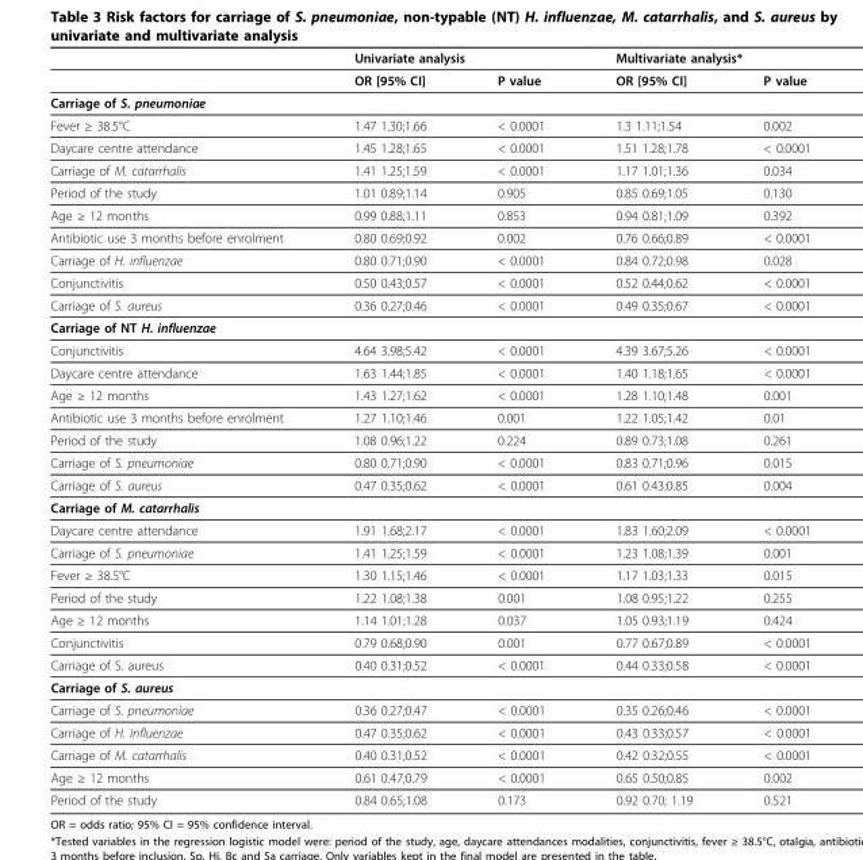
<table><thead><tr><td rowspan="2"></td><td colspan="2">Univariate analysis</td><td colspan="2">Multivariate analysis*</td></tr><tr><td>OR [95% CI]</td><td>P value</td><td>OR [95% CI]</td><td>P value</td></tr></thead><tbody><tr><td colspan="5">Carriage of S. pneumoniae</td></tr><tr><td>Fever ≥ 38.5°C</td><td>1.47 1.30;1.66</td><td>&lt; 0.0001</td><td>1.3 1.11;1.54</td><td>0.002</td></tr><tr><td>Daycare centre attendance</td><td>1.45 1.28;1.65</td><td>&lt; 0.0001</td><td>1.51 1.28;1.78</td><td>&lt; 0.0001</td></tr><tr><td>Carriage of M. catarrhalis</td><td>1.41 1.25;1.59</td><td>&lt; 0.0001</td><td>1.17 1.01;1.36</td><td>0.034</td></tr><tr><td>Period of the study</td><td>1.01 0.89;1.14</td><td>0.905</td><td>0.85 0.69;1.05</td><td>0.130</td></tr><tr><td>Age ≥ 12 months</td><td>0.99 0.88;1.11</td><td>0.853</td><td>0.94 0.81;1.09</td><td>0.392</td></tr><tr><td>Antibiotic use 3 months before enrolment</td><td>0.80 0.69;0.92</td><td>0.002</td><td>0.76 0.66;0.89</td><td>&lt; 0.0001</td></tr><tr><td>Carriage of H. influenzae</td><td>0.80 0.71;0.90</td><td>&lt; 0.0001</td><td>0.84 0.72;0.98</td><td>0.028</td></tr><tr><td>Conjunctivitis</td><td>0.50 0.43;0.57</td><td>&lt; 0.0001</td><td>0.52 0.44;0.62</td><td>&lt; 0.0001</td></tr><tr><td>Carriage of S. aureus</td><td>0.36 0.27;0.46</td><td>&lt; 0.0001</td><td>0.49 0.35;0.67</td><td>&lt; 0.0001</td></tr><tr><td colspan="5">Carriage of NT H. influenzae</td></tr><tr><td>Conjunctivitis</td><td>4.64 3.98;5.42</td><td>&lt; 0.0001</td><td>4.39 3.67;5.26</td><td>&lt; 0.0001</td></tr><tr><td>Daycare centre attendance</td><td>1.63 1.44;1.85</td><td>&lt; 0.0001</td><td>1.40 1.18;1.65</td><td>&lt; 0.0001</td></tr><tr><td>Age ≥ 12 months</td><td>1.43 1.27;1.62</td><td>&lt; 0.0001</td><td>1.28 1.10;1.48</td><td>0.001</td></tr><tr><td>Antibiotic use 3 months before enrolment</td><td>1.27 1.10;1.46</td><td>0.001</td><td>1.22 1.05;1.42</td><td>0.01</td></tr><tr><td>Period of the study</td><td>1.08 0.96;1.22</td><td>0.224</td><td>0.89 0.73;1.08</td><td>0.261</td></tr><tr><td>Carriage of S. pneumoniae</td><td>0.80 0.71;0.90</td><td>&lt; 0.0001</td><td>0.83 0.71;0.96</td><td>0.015</td></tr><tr><td>Carriage of S. aureus</td><td>0.47 0.35;0.62</td><td>&lt; 0.0001</td><td>0.61 0.43;0.85</td><td>0.004</td></tr><tr><td colspan="5">Carriage of M. catarrhalis</td></tr><tr><td>Daycare centre attendance</td><td>1.91 1.68;2.17</td><td>&lt; 0.0001</td><td>1.83 1.60;2.09</td><td>&lt; 0.0001</td></tr><tr><td>Carriage of S. pneumoniae</td><td>1.41 1.25;1.59</td><td>&lt; 0.0001</td><td>1.23 1.08;1.39</td><td>0.001</td></tr><tr><td>Fever ≥ 38.5°C</td><td>1.30 1.15;1.46</td><td>&lt; 0.0001</td><td>1.17 1.03;1.33</td><td>0.015</td></tr><tr><td>Period of the study</td><td>1.22 1.08;1.38</td><td>0.001</td><td>1.08 0.95;1.22</td><td>0.255</td></tr><tr><td>Age ≥ 12 months</td><td>1.14 1.01;1.28</td><td>0.037</td><td>1.05 0.93;1.19</td><td>0.424</td></tr><tr><td>Conjunctivitis</td><td>0.79 0.68;0.90</td><td>0.001</td><td>0.77 0.67;0.89</td><td>&lt; 0.0001</td></tr><tr><td>Carriage of S. aureus</td><td>0.40 0.31;0.52</td><td>&lt; 0.0001</td><td>0.44 0.33;0.58</td><td>&lt; 0.0001</td></tr><tr><td colspan="5">Carriage of S. aureus</td></tr><tr><td>Carriage of S. pneumoniae</td><td>0.36 0.27;0.47</td><td>&lt; 0.0001</td><td>0.35 0.26;0.46</td><td>&lt; 0.0001</td></tr><tr><td>Carriage of H. influenzae</td><td>0.47 0.35;0.62</td><td>&lt; 0.0001</td><td>0.43 0.33;0.57</td><td>&lt; 0.0001</td></tr><tr><td>Carriage of M. catarrhalis</td><td>0.40 0.31;0.52</td><td>&lt; 0.0001</td><td>0.42 0.32;0.55</td><td>&lt; 0.0001</td></tr><tr><td>Age ≥ 12 months</td><td>0.61 0.47;0.79</td><td>&lt; 0.0001</td><td>0.65 0.50;0.85</td><td>0.002</td></tr><tr><td>Period of the study</td><td>0.84 0.65;1.08</td><td>0.173</td><td>0.92 0.70; 1.19</td><td>0.521</td></tr></tbody></table>